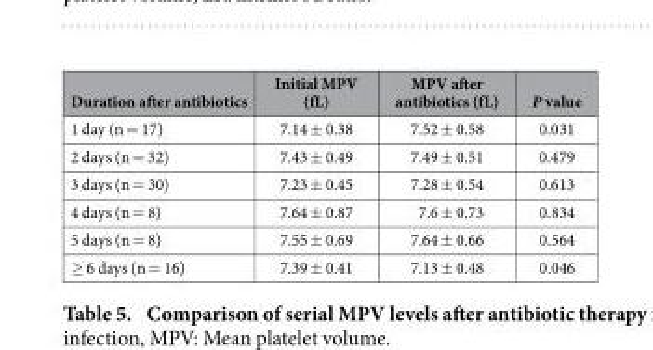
<table><thead><tr><td>Duration after antibiotics</td><td>Initial MPV (fL)</td><td>MPV after antibiotics (fL)</td><td>P value</td></tr></thead><tbody><tr><td>1 day (n = 17)</td><td>7.14 ± 0.38</td><td>7.52 ± 0.58</td><td>0.031</td></tr><tr><td>2 days (n = 32)</td><td>7.43 ± 0.49</td><td>7.49 ± 0.51</td><td>0.479</td></tr><tr><td>3 days (n = 30)</td><td>7.23 ± 0.45</td><td>7.28 ± 0.54</td><td>0.613</td></tr><tr><td>4 days (n = 8)</td><td>7.64 ± 0.87</td><td>7.6 ± 0.73</td><td>0.834</td></tr><tr><td>5 days (n = 8)</td><td>7.55 ± 0.69</td><td>7.64 ± 0.66</td><td>0.564</td></tr><tr><td>≥ 6 days (n = 16)</td><td>7.39 ± 0.41</td><td>7.13 ± 0.48</td><td>0.046</td></tr></tbody></table>